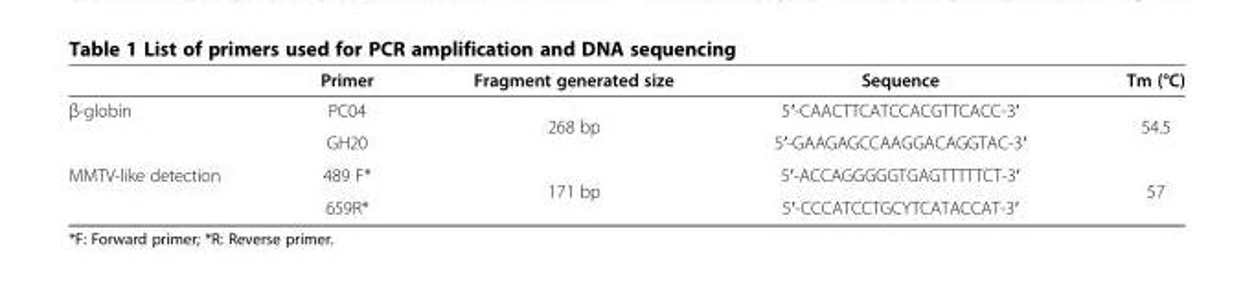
<table><thead><tr><td></td><td>Primer</td><td>Fragment generated size</td><td>Sequence</td><td>Tm (°C)</td></tr></thead><tbody><tr><td rowspan="2">β-globin</td><td>PC04</td><td rowspan="2">268 bp</td><td>5′-CAACTTCATCCACGTTCACC-3′</td><td rowspan="2">54.5</td></tr><tr><td>GH20</td><td>5′-GAAGAGCCAAGGACAGGTAC-3′</td></tr><tr><td rowspan="2">MMTV-like detection</td><td>489 F*</td><td rowspan="2">171 bp</td><td>5′-ACCAGGGGGTGAGTTTTTCT-3′</td><td rowspan="2">57</td></tr><tr><td>659R*</td><td>5′-CCCATCCTGCYTCATACCAT-3′</td></tr></tbody></table>